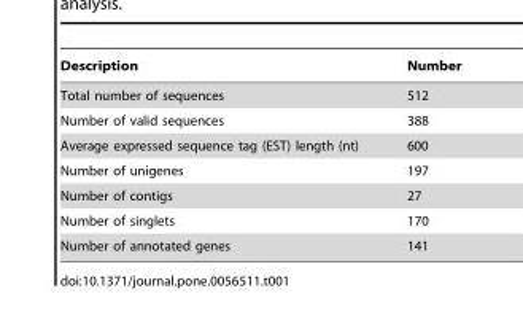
<table><thead><tr><td>Description</td><td>Number</td></tr></thead><tbody><tr><td>Total number of sequences</td><td>512</td></tr><tr><td>Number of valid sequences</td><td>388</td></tr><tr><td>Average expressed sequence tag (EST) length (nt)</td><td>600</td></tr><tr><td>Number of unigenes</td><td>197</td></tr><tr><td>Number of contigs</td><td>27</td></tr><tr><td>Number of singlets</td><td>170</td></tr><tr><td>Number of annotated genes</td><td>141</td></tr></tbody></table>